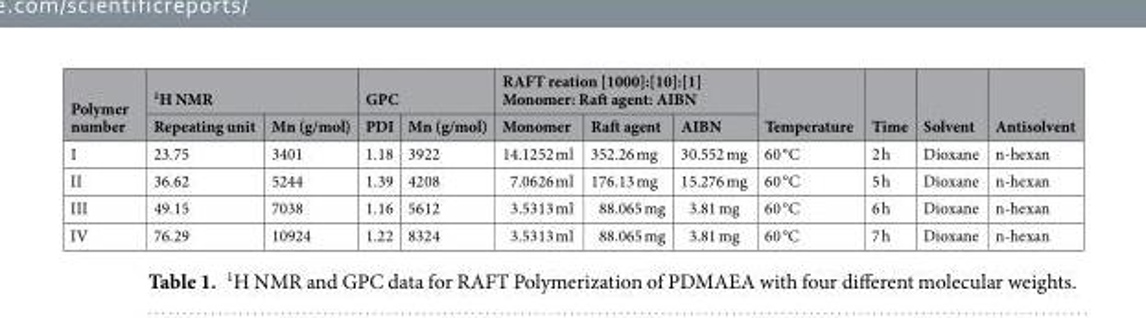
<table><thead><tr><td rowspan="2">Polymer number</td><td colspan="2"><sup>1</sup>H NMR</td><td colspan="2">GPC</td><td colspan="3">RAFT reation [1000]:[10]:[1] Monomer: Raft agent: AIBN</td><td rowspan="2">Temperature</td><td rowspan="2">Time</td><td rowspan="2">Solvent</td><td rowspan="2">Antisolvent</td></tr><tr><td>Repeating unit</td><td>Mn (g/mol)</td><td>PDI</td><td>Mn (g/mol)</td><td>Monomer</td><td>Raft agent</td><td>AIBN</td></tr></thead><tbody><tr><td>I</td><td>23.75</td><td>3401</td><td>1.18</td><td>3922</td><td>14.1252 ml</td><td>352.26 mg</td><td>30.552 mg</td><td>60 °C</td><td>2 h</td><td>Dioxane</td><td>n-hexan</td></tr><tr><td>II</td><td>36.62</td><td>5244</td><td>1.39</td><td>4208</td><td>7.0626 ml</td><td>176.13 mg</td><td>15.276 mg</td><td>60 °C</td><td>5 h</td><td>Dioxane</td><td>n-hexan</td></tr><tr><td>III</td><td>49.15</td><td>7038</td><td>1.16</td><td>5612</td><td>3.5313 ml</td><td>88.065 mg</td><td>3.81 mg</td><td>60 °C</td><td>6 h</td><td>Dioxane</td><td>n-hexan</td></tr><tr><td>IV</td><td>76.29</td><td>10924</td><td>1.22</td><td>8324</td><td>3.5313 ml</td><td>88.065 mg</td><td>3.81 mg</td><td>60 °C</td><td>7 h</td><td>Dioxane</td><td>n-hexan</td></tr></tbody></table>